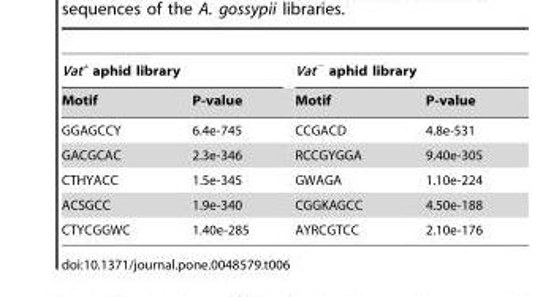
<table><thead><tr><td colspan="2">Vat<sup>+</sup> aphid library</td><td colspan="2">Vat<sup>−</sup> aphid library</td></tr><tr><td>Motif</td><td>P-value</td><td>Motif</td><td>P-value</td></tr></thead><tbody><tr><td>GGAGCCY</td><td>6.4e-745</td><td>CCGACD</td><td>4.8e-531</td></tr><tr><td>GACGCAC</td><td>2.3e-346</td><td>RCCGYGGA</td><td>9.40e-305</td></tr><tr><td>CTHYACC</td><td>1.5e-345</td><td>GWAGA</td><td>1.10e-224</td></tr><tr><td>ACSGCC</td><td>1.9e-340</td><td>CGGKAGCC</td><td>4.50e-188</td></tr><tr><td>CTYCGGWC</td><td>1.40e-285</td><td>AYRCGTCC</td><td>2.10e-176</td></tr></tbody></table>